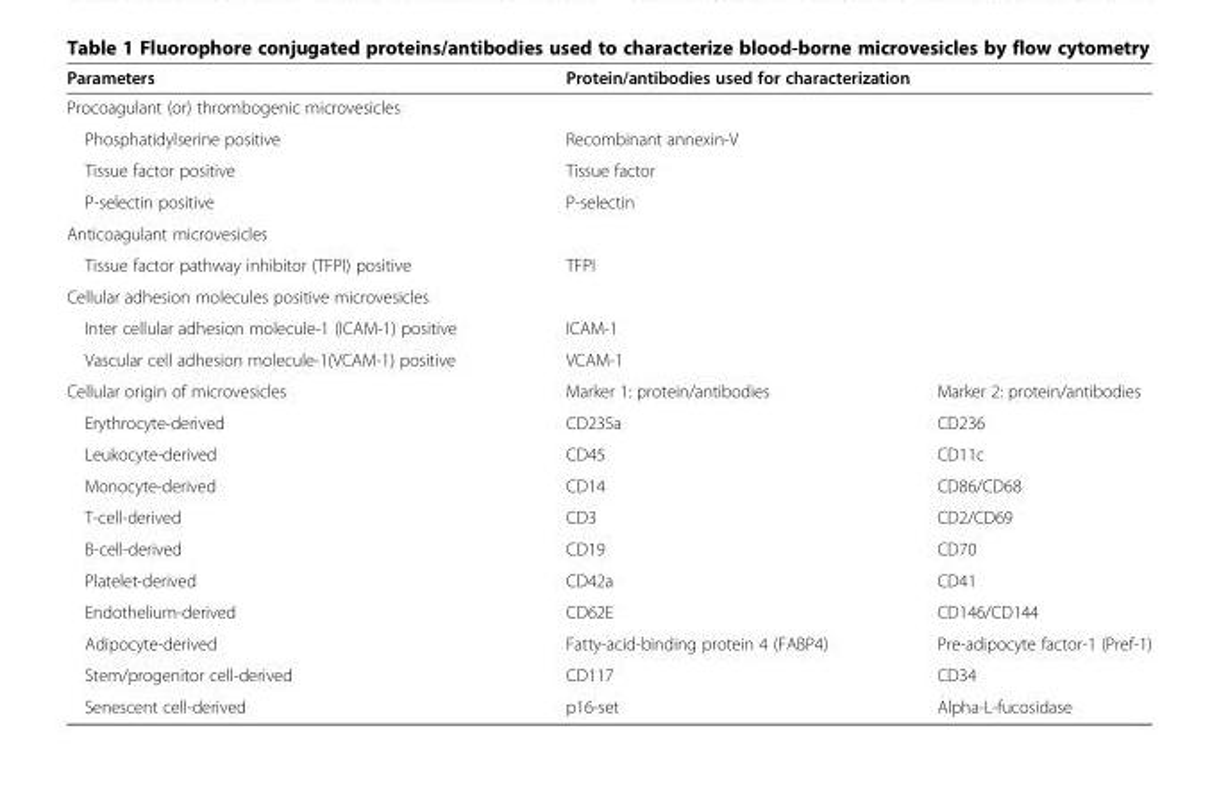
<table><tbody><tr><td>Parameters</td><td colspan="2">Protein/antibodies used for characterization</td></tr><tr><td colspan="3">Procoagulant (or) thrombogenic microvesicles</td></tr><tr><td>Phosphatidylserine positive</td><td colspan="2">Recombinant annexin-V</td></tr><tr><td>Tissue factor positive</td><td colspan="2">Tissue factor</td></tr><tr><td>P-selectin positive</td><td colspan="2">P-selectin</td></tr><tr><td colspan="3">Anticoagulant microvesicles</td></tr><tr><td>Tissue factor pathway inhibitor (TFPI) positive</td><td colspan="2">TFPI</td></tr><tr><td colspan="3">Cellular adhesion molecules positive microvesicles</td></tr><tr><td>Inter cellular adhesion molecule-1 (ICAM-1) positive</td><td colspan="2">ICAM-1</td></tr><tr><td>Vascular cell adhesion molecule-1(VCAM-1) positive</td><td colspan="2">VCAM-1</td></tr><tr><td>Cellular origin of microvesicles</td><td>Marker 1: protein/antibodies</td><td>Marker 2: protein/antibodies</td></tr><tr><td>Erythrocyte-derived</td><td>CD235a</td><td>CD236</td></tr><tr><td>Leukocyte-derived</td><td>CD45</td><td>CD11c</td></tr><tr><td>Monocyte-derived</td><td>CD14</td><td>CD86/CD68</td></tr><tr><td>T-cell-derived</td><td>CD3</td><td>CD2/CD69</td></tr><tr><td>B-cell-derived</td><td>CD19</td><td>CD70</td></tr><tr><td>Platelet-derived</td><td>CD42a</td><td>CD41</td></tr><tr><td>Endothelium-derived</td><td>CD62E</td><td>CD146/CD144</td></tr><tr><td>Adipocyte-derived</td><td>Fatty-acid-binding protein 4 (FABP4)</td><td>Pre-adipocyte factor-1 (Pref-1)</td></tr><tr><td>Stem/progenitor cell-derived</td><td>CD117</td><td>CD34</td></tr><tr><td>Senescent cell-derived</td><td>p16-set</td><td>Alpha-L-fucosidase</td></tr></tbody></table>